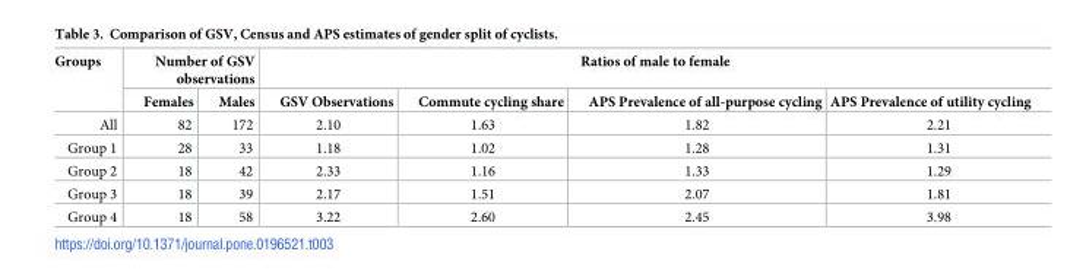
<table><thead><tr><td rowspan="2">Groups</td><td colspan="2">Number of GSV observations</td><td colspan="4">Ratios of male to female</td></tr><tr><td>Females</td><td>Males</td><td>GSV Observations</td><td>Commute cycling share</td><td>APS Prevalence of all-purpose cycling</td><td>APS Prevalence of utility cycling</td></tr></thead><tbody><tr><td>All</td><td>82</td><td>172</td><td>2.10</td><td>1.63</td><td>1.82</td><td>2.21</td></tr><tr><td>Group 1</td><td>28</td><td>33</td><td>1.18</td><td>1.02</td><td>1.28</td><td>1.31</td></tr><tr><td>Group 2</td><td>18</td><td>42</td><td>2.33</td><td>1.16</td><td>1.33</td><td>1.29</td></tr><tr><td>Group 3</td><td>18</td><td>39</td><td>2.17</td><td>1.51</td><td>2.07</td><td>1.81</td></tr><tr><td>Group 4</td><td>18</td><td>58</td><td>3.22</td><td>2.60</td><td>2.45</td><td>3.98</td></tr></tbody></table>